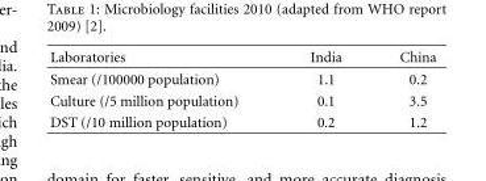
<table><thead><tr><td>Laboratories</td><td>India</td><td>China</td></tr></thead><tbody><tr><td>Smear (/100000 population)</td><td>1.1</td><td>0.2</td></tr><tr><td>Culture (/5 million population)</td><td>0.1</td><td>3.5</td></tr><tr><td>DST (/10 million population)</td><td>0.2</td><td>1.2</td></tr></tbody></table>